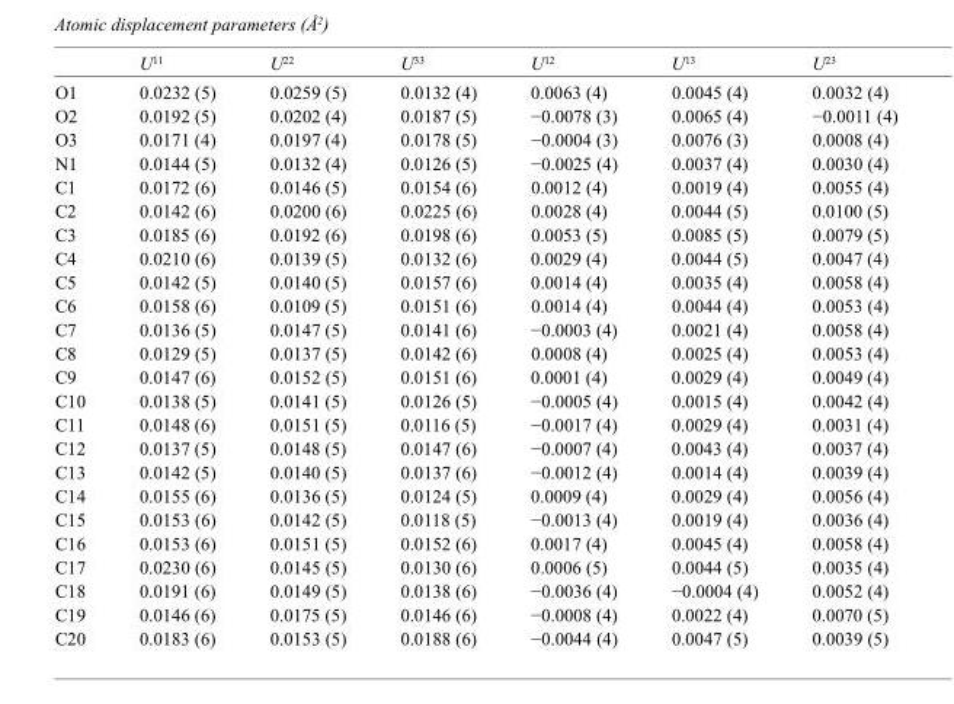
<table><thead><tr><td></td><td>U<sup>11</sup></td><td>U<sup>22</sup></td><td>U<sup>33</sup></td><td>U<sup>12</sup></td><td>U<sup>13</sup></td><td>U<sup>23</sup></td></tr></thead><tbody><tr><td>O1</td><td>0.0232 (5)</td><td>0.0259 (5)</td><td>0.0132 (4)</td><td>0.0063 (4)</td><td>0.0045 (4)</td><td>0.0032 (4)</td></tr><tr><td>O2</td><td>0.0192 (5)</td><td>0.0202 (4)</td><td>0.0187 (5)</td><td>−0.0078 (3)</td><td>0.0065 (4)</td><td>−0.0011 (4)</td></tr><tr><td>O3</td><td>0.0171 (4)</td><td>0.0197 (4)</td><td>0.0178 (5)</td><td>−0.0004 (3)</td><td>0.0076 (3)</td><td>0.0008 (4)</td></tr><tr><td>N1</td><td>0.0144 (5)</td><td>0.0132 (4)</td><td>0.0126 (5)</td><td>−0.0025 (4)</td><td>0.0037 (4)</td><td>0.0030 (4)</td></tr><tr><td>C1</td><td>0.0172 (6)</td><td>0.0146 (5)</td><td>0.0154 (6)</td><td>0.0012 (4)</td><td>0.0019 (4)</td><td>0.0055 (4)</td></tr><tr><td>C2</td><td>0.0142 (6)</td><td>0.0200 (6)</td><td>0.0225 (6)</td><td>0.0028 (4)</td><td>0.0044 (5)</td><td>0.0100 (5)</td></tr><tr><td>C3</td><td>0.0185 (6)</td><td>0.0192 (6)</td><td>0.0198 (6)</td><td>0.0053 (5)</td><td>0.0085 (5)</td><td>0.0079 (5)</td></tr><tr><td>C4</td><td>0.0210 (6)</td><td>0.0139 (5)</td><td>0.0132 (6)</td><td>0.0029 (4)</td><td>0.0044 (5)</td><td>0.0047 (4)</td></tr><tr><td>C5</td><td>0.0142 (5)</td><td>0.0140 (5)</td><td>0.0157 (6)</td><td>0.0014 (4)</td><td>0.0035 (4)</td><td>0.0058 (4)</td></tr><tr><td>C6</td><td>0.0158 (6)</td><td>0.0109 (5)</td><td>0.0151 (6)</td><td>0.0014 (4)</td><td>0.0044 (4)</td><td>0.0053 (4)</td></tr><tr><td>C7</td><td>0.0136 (5)</td><td>0.0147 (5)</td><td>0.0141 (6)</td><td>−0.0003 (4)</td><td>0.0021 (4)</td><td>0.0058 (4)</td></tr><tr><td>C8</td><td>0.0129 (5)</td><td>0.0137 (5)</td><td>0.0142 (6)</td><td>0.0008 (4)</td><td>0.0025 (4)</td><td>0.0053 (4)</td></tr><tr><td>C9</td><td>0.0147 (6)</td><td>0.0152 (5)</td><td>0.0151 (6)</td><td>0.0001 (4)</td><td>0.0029 (4)</td><td>0.0049 (4)</td></tr><tr><td>C10</td><td>0.0138 (5)</td><td>0.0141 (5)</td><td>0.0126 (5)</td><td>−0.0005 (4)</td><td>0.0015 (4)</td><td>0.0042 (4)</td></tr><tr><td>C11</td><td>0.0148 (6)</td><td>0.0151 (5)</td><td>0.0116 (5)</td><td>−0.0017 (4)</td><td>0.0029 (4)</td><td>0.0031 (4)</td></tr><tr><td>C12</td><td>0.0137 (5)</td><td>0.0148 (5)</td><td>0.0147 (6)</td><td>−0.0007 (4)</td><td>0.0043 (4)</td><td>0.0037 (4)</td></tr><tr><td>C13</td><td>0.0142 (5)</td><td>0.0140 (5)</td><td>0.0137 (6)</td><td>−0.0012 (4)</td><td>0.0014 (4)</td><td>0.0039 (4)</td></tr><tr><td>C14</td><td>0.0155 (6)</td><td>0.0136 (5)</td><td>0.0124 (5)</td><td>0.0009 (4)</td><td>0.0029 (4)</td><td>0.0056 (4)</td></tr><tr><td>C15</td><td>0.0153 (6)</td><td>0.0142 (5)</td><td>0.0118 (5)</td><td>−0.0013 (4)</td><td>0.0019 (4)</td><td>0.0036 (4)</td></tr><tr><td>C16</td><td>0.0153 (6)</td><td>0.0151 (5)</td><td>0.0152 (6)</td><td>0.0017 (4)</td><td>0.0045 (4)</td><td>0.0058 (4)</td></tr><tr><td>C17</td><td>0.0230 (6)</td><td>0.0145 (5)</td><td>0.0130 (6)</td><td>0.0006 (5)</td><td>0.0044 (5)</td><td>0.0035 (4)</td></tr><tr><td>C18</td><td>0.0191 (6)</td><td>0.0149 (5)</td><td>0.0138 (6)</td><td>−0.0036 (4)</td><td>−0.0004 (4)</td><td>0.0052 (4)</td></tr><tr><td>C19</td><td>0.0146 (6)</td><td>0.0175 (5)</td><td>0.0146 (6)</td><td>−0.0008 (4)</td><td>0.0022 (4)</td><td>0.0070 (5)</td></tr><tr><td>C20</td><td>0.0183 (6)</td><td>0.0153 (5)</td><td>0.0188 (6)</td><td>−0.0044 (4)</td><td>0.0047 (5)</td><td>0.0039 (5)</td></tr></tbody></table>